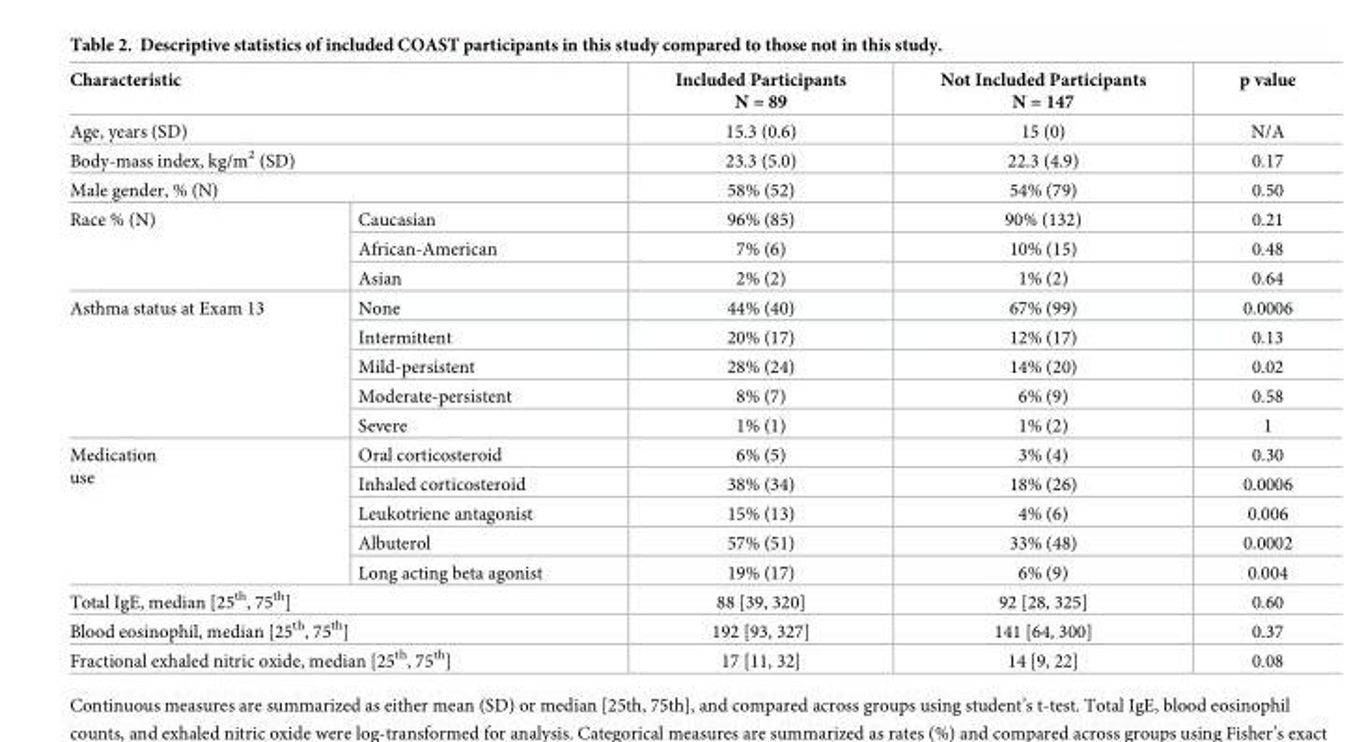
<table><thead><tr><td colspan="2">Characteristic</td><td>Included Participants N = 89</td><td>Not Included Participants N = 147</td><td>p value</td></tr></thead><tbody><tr><td colspan="2">Age, years (SD)</td><td>15.3 (0.6)</td><td>15 (0)</td><td>N/A</td></tr><tr><td colspan="2">Body-mass index, kg/m<sup>2</sup> (SD)</td><td>23.3 (5.0)</td><td>22.3 (4.9)</td><td>0.17</td></tr><tr><td colspan="2">Male gender, % (N)</td><td>58% (52)</td><td>54% (79)</td><td>0.50</td></tr><tr><td rowspan="3">Race % (N)</td><td>Caucasian</td><td>96% (85)</td><td>90% (132)</td><td>0.21</td></tr><tr><td>African-American</td><td>7% (6)</td><td>10% (15)</td><td>0.48</td></tr><tr><td>Asian</td><td>2% (2)</td><td>1% (2)</td><td>0.64</td></tr><tr><td rowspan="5">Asthma status at Exam 13</td><td>None</td><td>44% (40)</td><td>67% (99)</td><td>0.0006</td></tr><tr><td>Intermittent</td><td>20% (17)</td><td>12% (17)</td><td>0.13</td></tr><tr><td>Mild-persistent</td><td>28% (24)</td><td>14% (20)</td><td>0.02</td></tr><tr><td>Moderate-persistent</td><td>8% (7)</td><td>6% (9)</td><td>0.58</td></tr><tr><td>Severe</td><td>1% (1)</td><td>1% (2)</td><td>1</td></tr><tr><td rowspan="5">Medication use</td><td>Oral corticosteroid</td><td>6% (5)</td><td>3% (4)</td><td>0.30</td></tr><tr><td>Inhaled corticosteroid</td><td>38% (34)</td><td>18% (26)</td><td>0.0006</td></tr><tr><td>Leukotriene antagonist</td><td>15% (13)</td><td>4% (6)</td><td>0.006</td></tr><tr><td>Albuterol</td><td>57% (51)</td><td>33% (48)</td><td>0.0002</td></tr><tr><td>Long acting beta agonist</td><td>19% (17)</td><td>6% (9)</td><td>0.004</td></tr><tr><td colspan="2">Total IgE, median [25<sup>th</sup>, 75<sup>th</sup>]</td><td>88 [39, 320]</td><td>92 [28, 325]</td><td>0.60</td></tr><tr><td colspan="2">Blood eosinophil, median [25<sup>th</sup>, 75<sup>th</sup>]</td><td>192 [93, 327]</td><td>141 [64, 300]</td><td>0.37</td></tr><tr><td colspan="2">Fractional exhaled nitric oxide, median [25<sup>th</sup>, 75<sup>th</sup>]</td><td>17 [11, 32]</td><td>14 [9, 22]</td><td>0.08</td></tr></tbody></table>